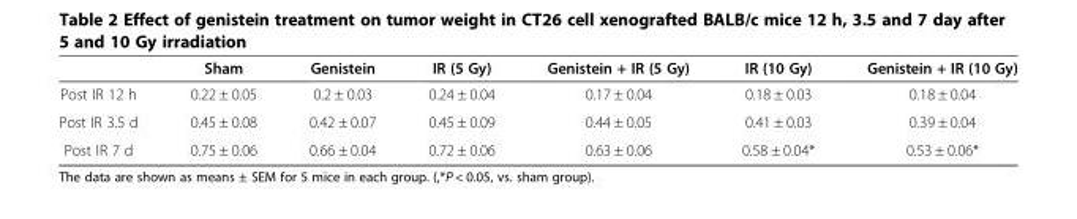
<table><thead><tr><td></td><td>Sham</td><td>Genistein</td><td>IR (5 Gy)</td><td>Genistein + IR (5 Gy)</td><td>IR (10 Gy)</td><td>Genistein + IR (10 Gy)</td></tr></thead><tbody><tr><td>Post IR 12 h</td><td>0.22 ± 0.05</td><td>0.2 ± 0.03</td><td>0.24 ± 0.04</td><td>0.17 ± 0.04</td><td>0.18 ± 0.03</td><td>0.18 ± 0.04</td></tr><tr><td>Post IR 3.5 d</td><td>0.45 ± 0.08</td><td>0.42 ± 0.07</td><td>0.45 ± 0.09</td><td>0.44 ± 0.05</td><td>0.41 ± 0.03</td><td>0.39 ± 0.04</td></tr><tr><td>Post IR 7 d</td><td>0.75 ± 0.06</td><td>0.66 ± 0.04</td><td>0.72 ± 0.06</td><td>0.63 ± 0.06</td><td>0.58 ± 0.04*</td><td>0.53 ± 0.06*</td></tr></tbody></table>